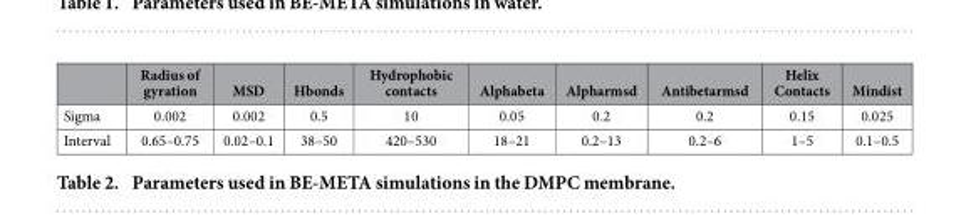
<table><thead><tr><td></td><td>Radius of gyration</td><td>MSD</td><td>Hbonds</td><td>Hydrophobic contacts</td><td>Alphabeta</td><td>Alpharmsd</td><td>Antibetarmsd</td><td>Helix Contacts</td><td>Mindist</td></tr></thead><tbody><tr><td>Sigma</td><td>0.002</td><td>0.002</td><td>0.5</td><td>10</td><td>0.05</td><td>0.2</td><td>0.2</td><td>0.15</td><td>0.025</td></tr><tr><td>Interval</td><td>0.65–0.75</td><td>0.02–0.1</td><td>38–50</td><td>420–530</td><td>18–21</td><td>0.2–13</td><td>0.2–6</td><td>1–5</td><td>0.1–0.5</td></tr></tbody></table>